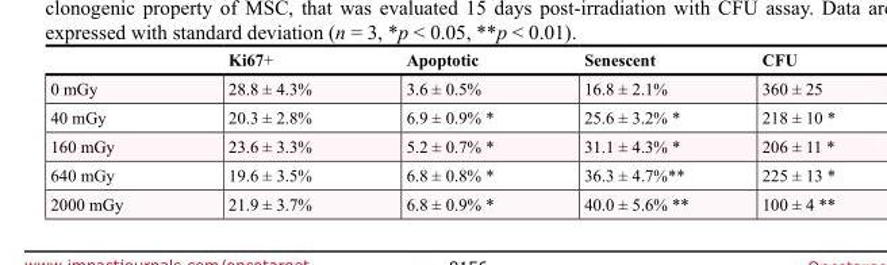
<table><thead><tr><td></td><td>Ki67+</td><td>Apoptotic</td><td>senescent</td><td>cFu</td></tr></thead><tbody><tr><td>0 mGy</td><td>28.8 ± 4.3%</td><td>3.6 ± 0.5%</td><td>16.8 ± 2.1%</td><td>360 ± 25</td></tr><tr><td>40 mGy</td><td>20.3 ± 2.8%</td><td>6.9 ± 0.9% *</td><td>25.6 ± 3.2% *</td><td>218 ± 10 *</td></tr><tr><td>160 mGy</td><td>23.6 ± 3.3%</td><td>5.2 ± 0.7% *</td><td>31.1 ± 4.3% *</td><td>206 ± 11 *</td></tr><tr><td>640 mGy</td><td>19.6 ± 3.5%</td><td>6.8 ± 0.8% *</td><td>36.3 ± 4.7%**</td><td>225 ± 13 *</td></tr><tr><td>2000 mGy</td><td>21.9 ± 3.7%</td><td>6.8 ± 0.9% *</td><td>40.0 ± 5.6% **</td><td>100 ± 4 **</td></tr></tbody></table>